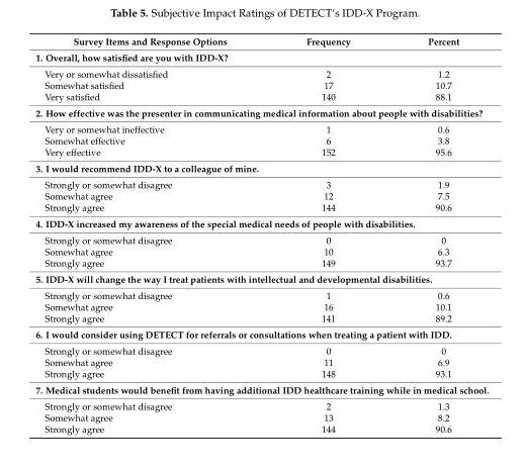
<table><thead><tr><td>Survey Items and Response Options</td><td>Frequency</td><td>Percent</td></tr></thead><tbody><tr><td colspan="3">1. Overall, how satisfied are you with IDD-X?</td></tr><tr><td>Very or somewhat dissatisfied</td><td>2</td><td>1.2</td></tr><tr><td>Somewhat satisfied</td><td>17</td><td>10.7</td></tr><tr><td>Very satisfied</td><td>140</td><td>88.1</td></tr><tr><td colspan="3">2. How effective was the presenter in communicating medical information about people with disabilities?</td></tr><tr><td>Very or somewhat ineffective</td><td>1</td><td>0.6</td></tr><tr><td>Somewhat effective</td><td>6</td><td>3.8</td></tr><tr><td>Very effective</td><td>152</td><td>95.6</td></tr><tr><td colspan="3">3. I would recommend IDD-X to a colleague of mine.</td></tr><tr><td>Strongly or somewhat disagree</td><td>3</td><td>1.9</td></tr><tr><td>Somewhat agree</td><td>12</td><td>7.5</td></tr><tr><td>Strongly agree</td><td>144</td><td>90.6</td></tr><tr><td colspan="3">4. IDD-X increased my awareness of the special medical needs of people with disabilities.</td></tr><tr><td>Strongly or somewhat disagree</td><td>0</td><td>0</td></tr><tr><td>Somewhat agree</td><td>10</td><td>6.3</td></tr><tr><td>Strongly agree</td><td>149</td><td>93.7</td></tr><tr><td colspan="3">5. IDD-X will change the way I treat patients with intellectual and developmental disabilities.</td></tr><tr><td>Strongly or somewhat disagree</td><td>1</td><td>0.6</td></tr><tr><td>Somewhat agree</td><td>16</td><td>10.1</td></tr><tr><td>Strongly agree</td><td>141</td><td>89.2</td></tr><tr><td colspan="3">6. I would consider using DETECT for referrals or consultations when treating a patient with IDD.</td></tr><tr><td>Strongly or somewhat disagree</td><td>0</td><td>0</td></tr><tr><td>Somewhat agree</td><td>11</td><td>6.9</td></tr><tr><td>Strongly agree</td><td>148</td><td>93.1</td></tr><tr><td colspan="3">7. Medical students would benefit from having additional IDD healthcare training while in medical school.</td></tr><tr><td>Strongly or somewhat disagree</td><td>2</td><td>1.3</td></tr><tr><td>Somewhat agree</td><td>13</td><td>8.2</td></tr><tr><td>Strongly agree</td><td>144</td><td>90.6</td></tr></tbody></table>